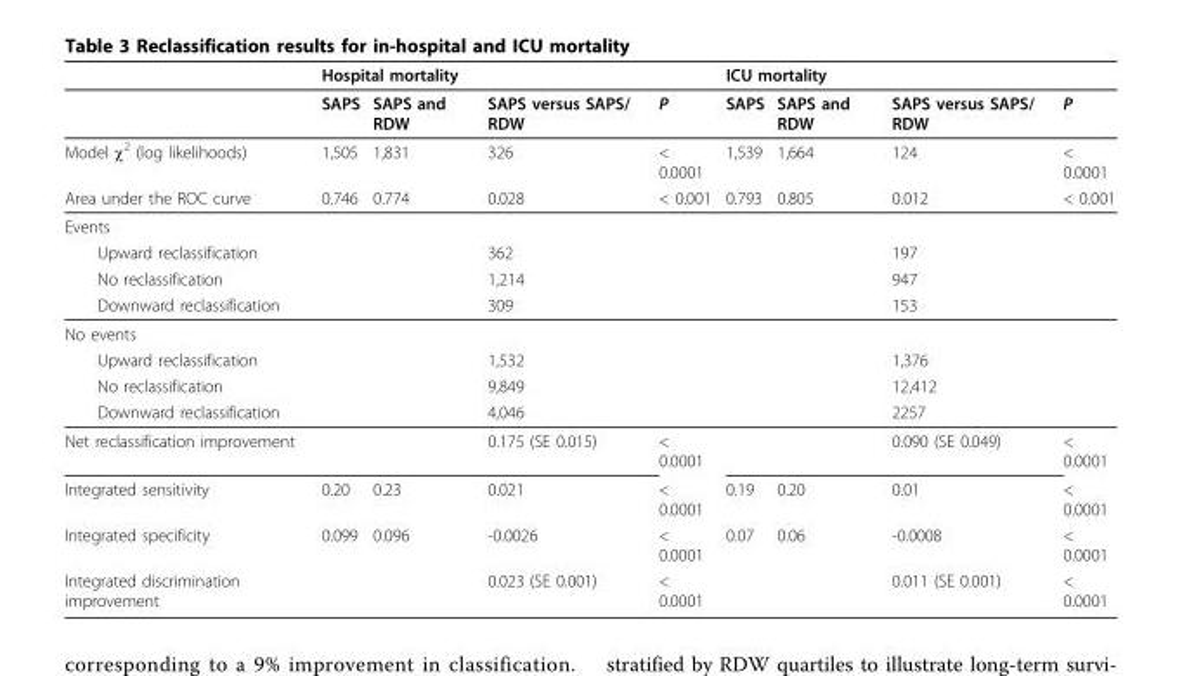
<table><thead><tr><td rowspan="2"></td><td colspan="4">Hospital mortality</td><td colspan="4">ICU mortality</td></tr><tr><td>SAPS</td><td>SAPS and RDW</td><td>SAPS versus SAPS/ RDW</td><td>P</td><td>SAPS</td><td>SAPS and RDW</td><td>SAPS versus SAPS/ RDW</td><td>P</td></tr></thead><tbody><tr><td>Model χ<sup>2</sup> (log likelihoods)</td><td>1,505</td><td>1,831</td><td>326</td><td>&lt; 0.0001</td><td>1,539</td><td>1,664</td><td>124</td><td>&lt; 0.0001</td></tr><tr><td>Area under the ROC curve</td><td>0.746</td><td>0.774</td><td>0.028</td><td>&lt; 0.001</td><td>0.793</td><td>0.805</td><td>0.012</td><td>&lt; 0.001</td></tr><tr><td colspan="9">Events</td></tr><tr><td>Upward reclassification</td><td></td><td></td><td>362</td><td></td><td></td><td></td><td>197</td><td></td></tr><tr><td>No reclassification</td><td></td><td></td><td>1,214</td><td></td><td></td><td></td><td>947</td><td></td></tr><tr><td>Downward reclassification</td><td></td><td></td><td>309</td><td></td><td></td><td></td><td>153</td><td></td></tr><tr><td colspan="9">No events</td></tr><tr><td>Upward reclassification</td><td></td><td></td><td>1,532</td><td></td><td></td><td></td><td>1,376</td><td></td></tr><tr><td>No reclassification</td><td></td><td></td><td>9,849</td><td></td><td></td><td></td><td>12,412</td><td></td></tr><tr><td>Downward reclassification</td><td></td><td></td><td>4,046</td><td></td><td></td><td></td><td>2257</td><td></td></tr><tr><td>Net reclassification improvement</td><td></td><td></td><td>0.175 (SE 0.015)</td><td>&lt; 0.0001</td><td></td><td></td><td>0.090 (SE 0.049)</td><td>&lt; 0.0001</td></tr><tr><td>Integrated sensitivity</td><td>0.20</td><td>0.23</td><td>0.021</td><td>&lt; 0.0001</td><td>0.19</td><td>0.20</td><td>0.01</td><td>&lt; 0.0001</td></tr><tr><td>Integrated specificity</td><td>0.099</td><td>0.096</td><td>-0.0026</td><td>&lt; 0.0001</td><td>0.07</td><td>0.06</td><td>-0.0008</td><td>&lt; 0.0001</td></tr><tr><td>Integrated discrimination improvement</td><td></td><td></td><td>0.023 (SE 0.001)</td><td>&lt; 0.0001</td><td></td><td></td><td>0.011 (SE 0.001)</td><td>&lt; 0.0001</td></tr></tbody></table>